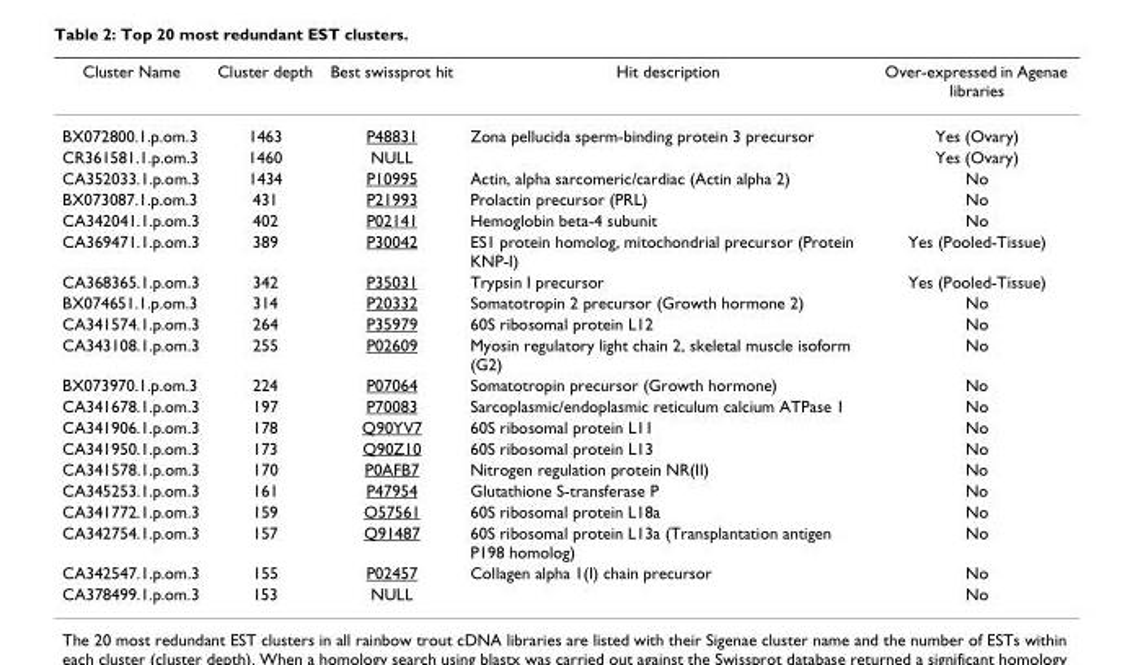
<table><thead><tr><td>Cluster Name</td><td>Cluster depth</td><td>Best swissprot hit</td><td>Hit description</td><td>Over-expressed in Agenae libraries</td></tr></thead><tbody><tr><td>BX072800.1.p.om.3</td><td>1463</td><td>P48831</td><td>Zona pellucida sperm-binding protein 3 precursor</td><td>Yes (Ovary)</td></tr><tr><td>CR361581.1.p.om.3</td><td>1460</td><td>NULL</td><td></td><td>Yes (Ovary)</td></tr><tr><td>CA352033.1.p.om.3</td><td>1434</td><td>P10995</td><td>Actin, alpha sarcomeric/cardiac (Actin alpha 2)</td><td>No</td></tr><tr><td>BX073087.1.p.om.3</td><td>431</td><td>P21993</td><td>Prolactin precursor (PRL)</td><td>No</td></tr><tr><td>CA342041.1.p.om.3</td><td>402</td><td>P02141</td><td>Hemoglobin beta-4 subunit</td><td>No</td></tr><tr><td>CA369471.1.p.om.3</td><td>389</td><td>P30042</td><td>ES1 protein homolog, mitochondrial precursor (Protein KNP-I)</td><td>Yes (Pooled-Tissue)</td></tr><tr><td>CA368365.1.p.om.3</td><td>342</td><td>P35031</td><td>Trypsin I precursor</td><td>Yes (Pooled-Tissue)</td></tr><tr><td>BX074651.1.p.om.3</td><td>314</td><td>P20332</td><td>Somatotropin 2 precursor (Growth hormone 2)</td><td>No</td></tr><tr><td>CA341574.1.p.om.3</td><td>264</td><td>P35979</td><td>60S ribosomal protein L12</td><td>No</td></tr><tr><td>CA343108.1.p.om.3</td><td>255</td><td>P02609</td><td>Myosin regulatory light chain 2, skeletal muscle isoform (G2)</td><td>No</td></tr><tr><td>BX073970.1.p.om.3</td><td>224</td><td>P07064</td><td>Somatotropin precursor (Growth hormone)</td><td>No</td></tr><tr><td>CA341678.1.p.om.3</td><td>197</td><td>P70083</td><td>Sarcoplasmic/endoplasmic reticulum calcium ATPase 1</td><td>No</td></tr><tr><td>CA341906.1.p.om.3</td><td>178</td><td>Q90YV7</td><td>60S ribosomal protein L11</td><td>No</td></tr><tr><td>CA341950.1.p.om.3</td><td>173</td><td>Q90Z10</td><td>60S ribosomal protein L13</td><td>No</td></tr><tr><td>CA341578.1.p.om.3</td><td>170</td><td>P0AFB7</td><td>Nitrogen regulation protein NR(II)</td><td>No</td></tr><tr><td>CA345253.1.p.om.3</td><td>161</td><td>P47954</td><td>Glutathione S-transferase P</td><td>No</td></tr><tr><td>CA341772.1.p.om.3</td><td>159</td><td>O57561</td><td>60S ribosomal protein L18a</td><td>No</td></tr><tr><td>CA342754.1.p.om.3</td><td>157</td><td>Q91487</td><td>60S ribosomal protein L13a (Transplantation antigen P198 homolog)</td><td>No</td></tr><tr><td>CA342547.1.p.om.3</td><td>155</td><td>P02457</td><td>Collagen alpha 1(I) chain precursor</td><td>No</td></tr><tr><td>CA378499.1.p.om.3</td><td>153</td><td>NULL</td><td></td><td>No</td></tr></tbody></table>